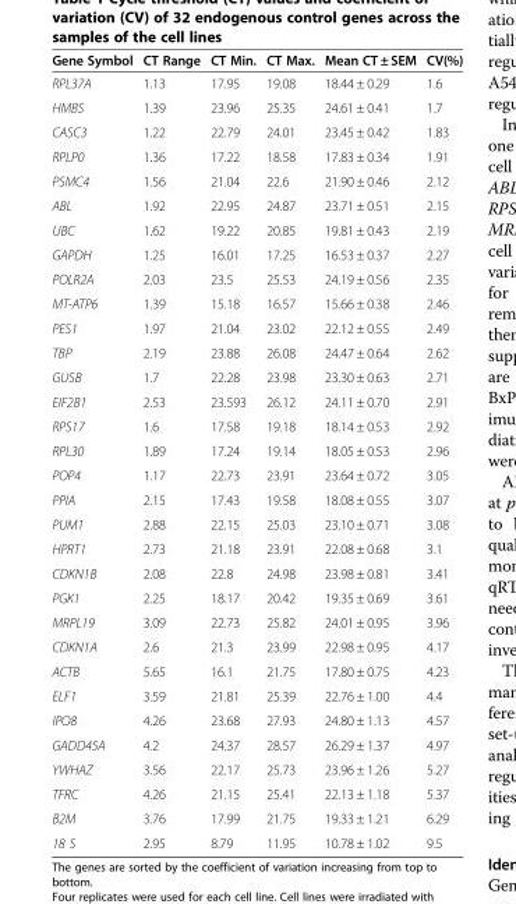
<table><thead><tr><td>Gene Symbol</td><td>CT Range</td><td>CT Min.</td><td>CT Max.</td><td>Mean CT ± SEM</td><td>CV(%)</td></tr></thead><tbody><tr><td>RPL37A</td><td>1.13</td><td>17.95</td><td>19.08</td><td>18.44 ± 0.29</td><td>1.6</td></tr><tr><td>HMBS</td><td>1.39</td><td>23.96</td><td>25.35</td><td>24.61 ± 0.41</td><td>1.7</td></tr><tr><td>CASC3</td><td>1.22</td><td>22.79</td><td>24.01</td><td>23.45 ± 0.42</td><td>1.83</td></tr><tr><td>RPLP0</td><td>1.36</td><td>17.22</td><td>18.58</td><td>17.83 ± 0.34</td><td>1.91</td></tr><tr><td>PSMC4</td><td>1.56</td><td>21.04</td><td>22.6</td><td>21.90 ± 0.46</td><td>2.12</td></tr><tr><td>ABL</td><td>1.92</td><td>22.95</td><td>24.87</td><td>23.71 ± 0.51</td><td>2.15</td></tr><tr><td>UBC</td><td>1.62</td><td>19.22</td><td>20.85</td><td>19.81 ± 0.43</td><td>2.19</td></tr><tr><td>GAPDH</td><td>1.25</td><td>16.01</td><td>17.25</td><td>16.53 ± 0.37</td><td>2.27</td></tr><tr><td>POLR2A</td><td>2.03</td><td>23.5</td><td>25.53</td><td>24.19 ± 0.56</td><td>2.35</td></tr><tr><td>MT-ATP6</td><td>1.39</td><td>15.18</td><td>16.57</td><td>15.66 ± 0.38</td><td>2.46</td></tr><tr><td>PES1</td><td>1.97</td><td>21.04</td><td>23.02</td><td>22.12 ± 0.55</td><td>2.49</td></tr><tr><td>TBP</td><td>2.19</td><td>23.88</td><td>26.08</td><td>24.47 ± 0.64</td><td>2.62</td></tr><tr><td>GUSB</td><td>1.7</td><td>22.28</td><td>23.98</td><td>23.30 ± 0.63</td><td>2.71</td></tr><tr><td>EIF2B1</td><td>2.53</td><td>23.593</td><td>26.12</td><td>24.11 ± 0.70</td><td>2.91</td></tr><tr><td>RPS17</td><td>1.6</td><td>17.58</td><td>19.18</td><td>18.14 ± 0.53</td><td>2.92</td></tr><tr><td>RPL30</td><td>1.89</td><td>17.24</td><td>19.14</td><td>18.05 ± 0.53</td><td>2.96</td></tr><tr><td>POP4</td><td>1.17</td><td>22.73</td><td>23.91</td><td>23.64 ± 0.72</td><td>3.05</td></tr><tr><td>PPIA</td><td>2.15</td><td>17.43</td><td>19.58</td><td>18.08 ± 0.55</td><td>3.07</td></tr><tr><td>PUM1</td><td>2.88</td><td>22.15</td><td>25.03</td><td>23.10 ± 0.71</td><td>3.08</td></tr><tr><td>HPRT1</td><td>2.73</td><td>21.18</td><td>23.91</td><td>22.08 ± 0.68</td><td>3.1</td></tr><tr><td>CDKN1B</td><td>2.08</td><td>22.8</td><td>24.98</td><td>23.98 ± 0.81</td><td>3.41</td></tr><tr><td>PGK1</td><td>2.25</td><td>18.17</td><td>20.42</td><td>19.35 ± 0.69</td><td>3.61</td></tr><tr><td>MRPL19</td><td>3.09</td><td>22.73</td><td>25.82</td><td>24.01 ± 0.95</td><td>3.96</td></tr><tr><td>CDKN1A</td><td>2.6</td><td>21.3</td><td>23.99</td><td>22.98 ± 0.95</td><td>4.17</td></tr><tr><td>ACTB</td><td>5.65</td><td>16.1</td><td>21.75</td><td>17.80 ± 0.75</td><td>4.23</td></tr><tr><td>ELF1</td><td>3.59</td><td>21.81</td><td>25.39</td><td>22.76 ± 1.00</td><td>4.4</td></tr><tr><td>IPO8</td><td>4.26</td><td>23.68</td><td>27.93</td><td>24.80 ± 1.13</td><td>4.57</td></tr><tr><td>GADD45A</td><td>4.2</td><td>24.37</td><td>28.57</td><td>26.29 ± 1.37</td><td>4.97</td></tr><tr><td>YWHAZ</td><td>3.56</td><td>22.17</td><td>25.73</td><td>23.96 ± 1.26</td><td>5.27</td></tr><tr><td>TFRC</td><td>4.26</td><td>21.15</td><td>25.41</td><td>22.13 ± 1.18</td><td>5.37</td></tr><tr><td>B2M</td><td>3.76</td><td>17.99</td><td>21.75</td><td>19.33 ± 1.21</td><td>6.29</td></tr><tr><td>18 S</td><td>2.95</td><td>8.79</td><td>11.95</td><td>10.78 ± 1.02</td><td>9.5</td></tr></tbody></table>